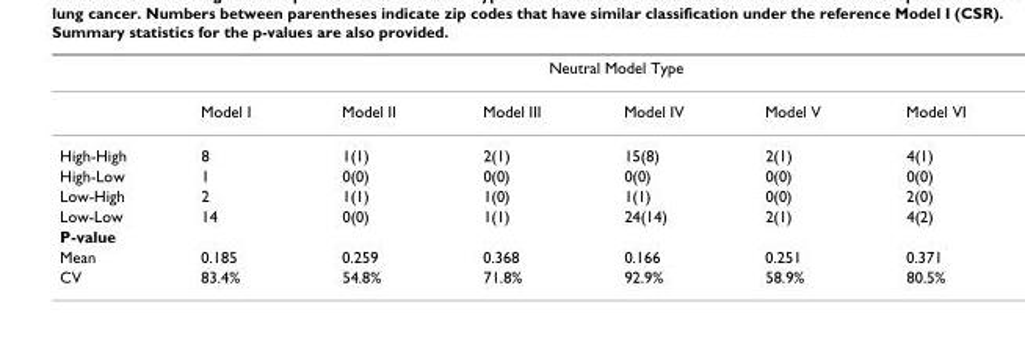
<table><thead><tr><td rowspan="2"></td><td colspan="6">Neutral Model Type</td></tr><tr><td>Model I</td><td>Model II</td><td>Model III</td><td>Model IV</td><td>Model V</td><td>Model VI</td></tr></thead><tbody><tr><td>High-High</td><td>8</td><td>1(1)</td><td>2(1)</td><td>15(8)</td><td>2(1)</td><td>4(1)</td></tr><tr><td>High-Low</td><td>1</td><td>0(0)</td><td>0(0)</td><td>0(0)</td><td>0(0)</td><td>0(0)</td></tr><tr><td>Low-High</td><td>2</td><td>1(1)</td><td>1(0)</td><td>1(1)</td><td>0(0)</td><td>2(0)</td></tr><tr><td>Low-Low</td><td>14</td><td>0(0)</td><td>1(1)</td><td>24(14)</td><td>2(1)</td><td>4(2)</td></tr><tr><td colspan="7">P-value</td></tr><tr><td>Mean</td><td>0.185</td><td>0.259</td><td>0.368</td><td>0.166</td><td>0.251</td><td>0.371</td></tr><tr><td>CV</td><td>83.4%</td><td>54.8%</td><td>71.8%</td><td>92.9%</td><td>58.9%</td><td>80.5%</td></tr></tbody></table>